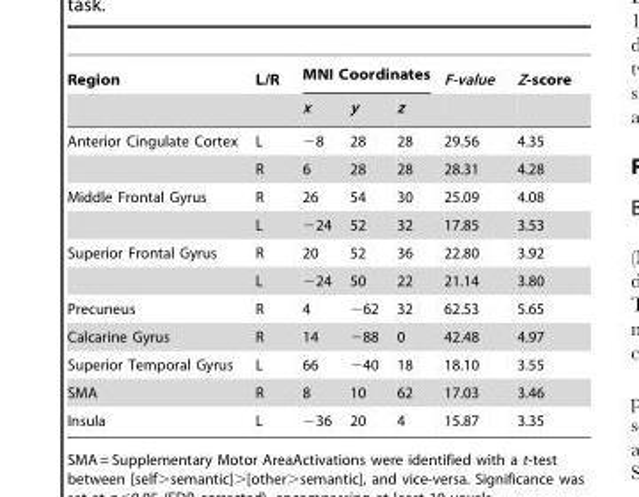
<table><thead><tr><td rowspan="2">Region</td><td rowspan="2">L/R</td><td colspan="3">MNI Coordinates</td><td rowspan="2">F-value</td><td rowspan="2">Z-score</td></tr><tr><td>x</td><td>y</td><td>z</td></tr></thead><tbody><tr><td rowspan="2">Anterior Cingulate Cortex</td><td>L</td><td>−8</td><td>28</td><td>28</td><td>29.56</td><td>4.35</td></tr><tr><td>R</td><td>6</td><td>28</td><td>28</td><td>28.31</td><td>4.28</td></tr><tr><td rowspan="2">Middle Frontal Gyrus</td><td>R</td><td>26</td><td>54</td><td>30</td><td>25.09</td><td>4.08</td></tr><tr><td>L</td><td>−24</td><td>52</td><td>32</td><td>17.85</td><td>3.53</td></tr><tr><td rowspan="2">Superior Frontal Gyrus</td><td>R</td><td>20</td><td>52</td><td>36</td><td>22.80</td><td>3.92</td></tr><tr><td>L</td><td>−24</td><td>50</td><td>22</td><td>21.14</td><td>3.80</td></tr><tr><td>Precuneus</td><td>R</td><td>4</td><td>−62</td><td>32</td><td>62.53</td><td>5.65</td></tr><tr><td>Calcarine Gyrus</td><td>R</td><td>14</td><td>−88</td><td>0</td><td>42.48</td><td>4.97</td></tr><tr><td>Superior Temporal Gyrus</td><td>L</td><td>66</td><td>−40</td><td>18</td><td>18.10</td><td>3.55</td></tr><tr><td>SMA</td><td>R</td><td>8</td><td>10</td><td>62</td><td>17.03</td><td>3.46</td></tr><tr><td>Insula</td><td>L</td><td>−36</td><td>20</td><td>4</td><td>15.87</td><td>3.35</td></tr></tbody></table>